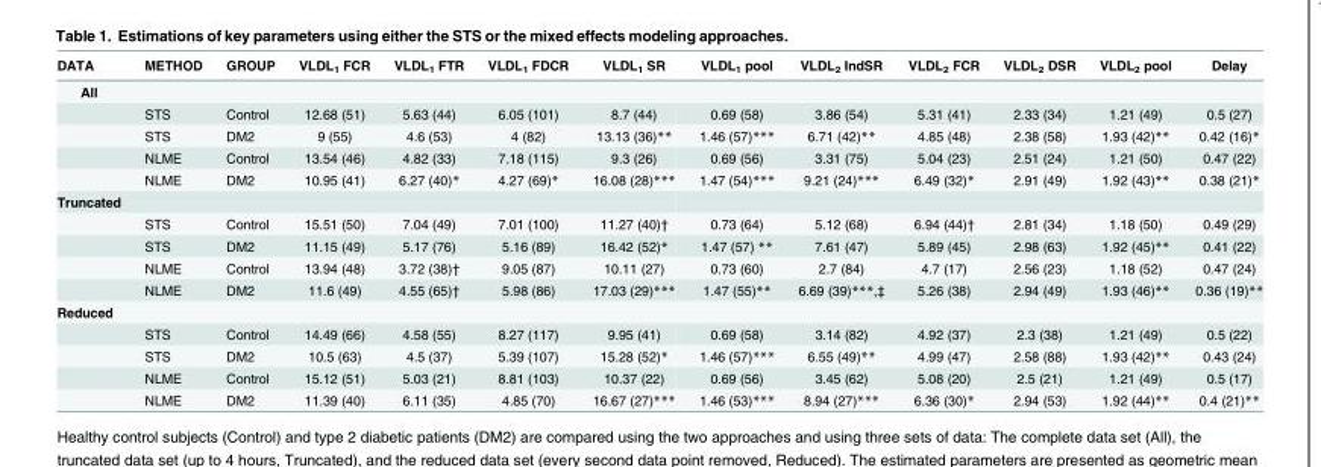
<table><thead><tr><td>DATA</td><td>METHOD</td><td>GROUP</td><td>VLDL<sub>1</sub> FCR</td><td>VLDL<sub>1</sub> FTR</td><td>VLDL<sub>1</sub> FDCR</td><td>VLDL<sub>1</sub> SR</td><td>VLDL<sub>1</sub> pool</td><td>VLDL<sub>2</sub> IndSR</td><td>VLDL<sub>2</sub> FCR</td><td>VLDL<sub>2</sub> DSR</td><td>VLDL<sub>2</sub> pool</td><td>Delay</td></tr></thead><tbody><tr><td colspan="13">All</td></tr><tr><td></td><td>STS</td><td>Control</td><td>12.68 (51)</td><td>5.63 (44)</td><td>6.05 (101)</td><td>8.7 (44)</td><td>0.69 (58)</td><td>3.86 (54)</td><td>5.31 (41)</td><td>2.33 (34)</td><td>1.21 (49)</td><td>0.5 (27)</td></tr><tr><td></td><td>STS</td><td>DM2</td><td>9 (55)</td><td>4.6 (53)</td><td>4 (82)</td><td>13.13 (36)**</td><td>1.46 (57)***</td><td>6.71 (42)**</td><td>4.85 (48)</td><td>2.38 (58)</td><td>1.93 (42)**</td><td>0.42 (16)*</td></tr><tr><td></td><td>NLME</td><td>Control</td><td>13.54 (46)</td><td>4.82 (33)</td><td>7.18 (115)</td><td>9.3 (26)</td><td>0.69 (56)</td><td>3.31 (75)</td><td>5.04 (23)</td><td>2.51 (24)</td><td>1.21 (50)</td><td>0.47 (22)</td></tr><tr><td></td><td>NLME</td><td>DM2</td><td>10.95 (41)</td><td>6.27 (40)*</td><td>4.27 (69)*</td><td>16.08 (28)***</td><td>1.47 (54)***</td><td>9.21 (24)***</td><td>6.49 (32)*</td><td>2.91 (49)</td><td>1.92 (43)**</td><td>0.38 (21)*</td></tr><tr><td colspan="13">Truncated</td></tr><tr><td></td><td>STS</td><td>Control</td><td>15.51 (50)</td><td>7.04 (49)</td><td>7.01 (100)</td><td>11.27 (40)†</td><td>0.73 (64)</td><td>5.12 (68)</td><td>6.94 (44)†</td><td>2.81 (34)</td><td>1.18 (50)</td><td>0.49 (29)</td></tr><tr><td></td><td>STS</td><td>DM2</td><td>11.15 (49)</td><td>5.17 (76)</td><td>5.16 (89)</td><td>16.42 (52)*</td><td>1.47 (57) **</td><td>7.61 (47)</td><td>5.89 (45)</td><td>2.98 (63)</td><td>1.92 (45)**</td><td>0.41 (22)</td></tr><tr><td></td><td>NLME</td><td>Control</td><td>13.94 (48)</td><td>3.72 (38)†</td><td>9.05 (87)</td><td>10.11 (27)</td><td>0.73 (60)</td><td>2.7 (84)</td><td>4.7 (17)</td><td>2.56 (23)</td><td>1.18 (52)</td><td>0.47 (24)</td></tr><tr><td></td><td>NLME</td><td>DM2</td><td>11.6 (49)</td><td>4.55 (65)†</td><td>5.98 (86)</td><td>17.03 (29)***</td><td>1.47 (55)**</td><td>6.69 (39)***,‡</td><td>5.26 (38)</td><td>2.94 (49)</td><td>1.93 (46)**</td><td>0.36 (19)**</td></tr><tr><td colspan="13">Reduced</td></tr><tr><td></td><td>STS</td><td>Control</td><td>14.49 (66)</td><td>4.58 (55)</td><td>8.27 (117)</td><td>9.95 (41)</td><td>0.69 (58)</td><td>3.14 (82)</td><td>4.92 (37)</td><td>2.3 (38)</td><td>1.21 (49)</td><td>0.5 (22)</td></tr><tr><td></td><td>STS</td><td>DM2</td><td>10.5 (63)</td><td>4.5 (37)</td><td>5.39 (107)</td><td>15.28 (52)*</td><td>1.46 (57)***</td><td>6.55 (49)**</td><td>4.99 (47)</td><td>2.58 (88)</td><td>1.93 (42)**</td><td>0.43 (24)</td></tr><tr><td></td><td>NLME</td><td>Control</td><td>15.12 (51)</td><td>5.03 (21)</td><td>8.81 (103)</td><td>10.37 (22)</td><td>0.69 (56)</td><td>3.45 (62)</td><td>5.08 (20)</td><td>2.5 (21)</td><td>1.21 (49)</td><td>0.5 (17)</td></tr><tr><td></td><td>NLME</td><td>DM2</td><td>11.39 (40)</td><td>6.11 (35)</td><td>4.85 (70)</td><td>16.67 (27)***</td><td>1.46 (53)***</td><td>8.94 (27)***</td><td>6.36 (30)*</td><td>2.94 (53)</td><td>1.92 (44)**</td><td>0.4 (21)**</td></tr></tbody></table>